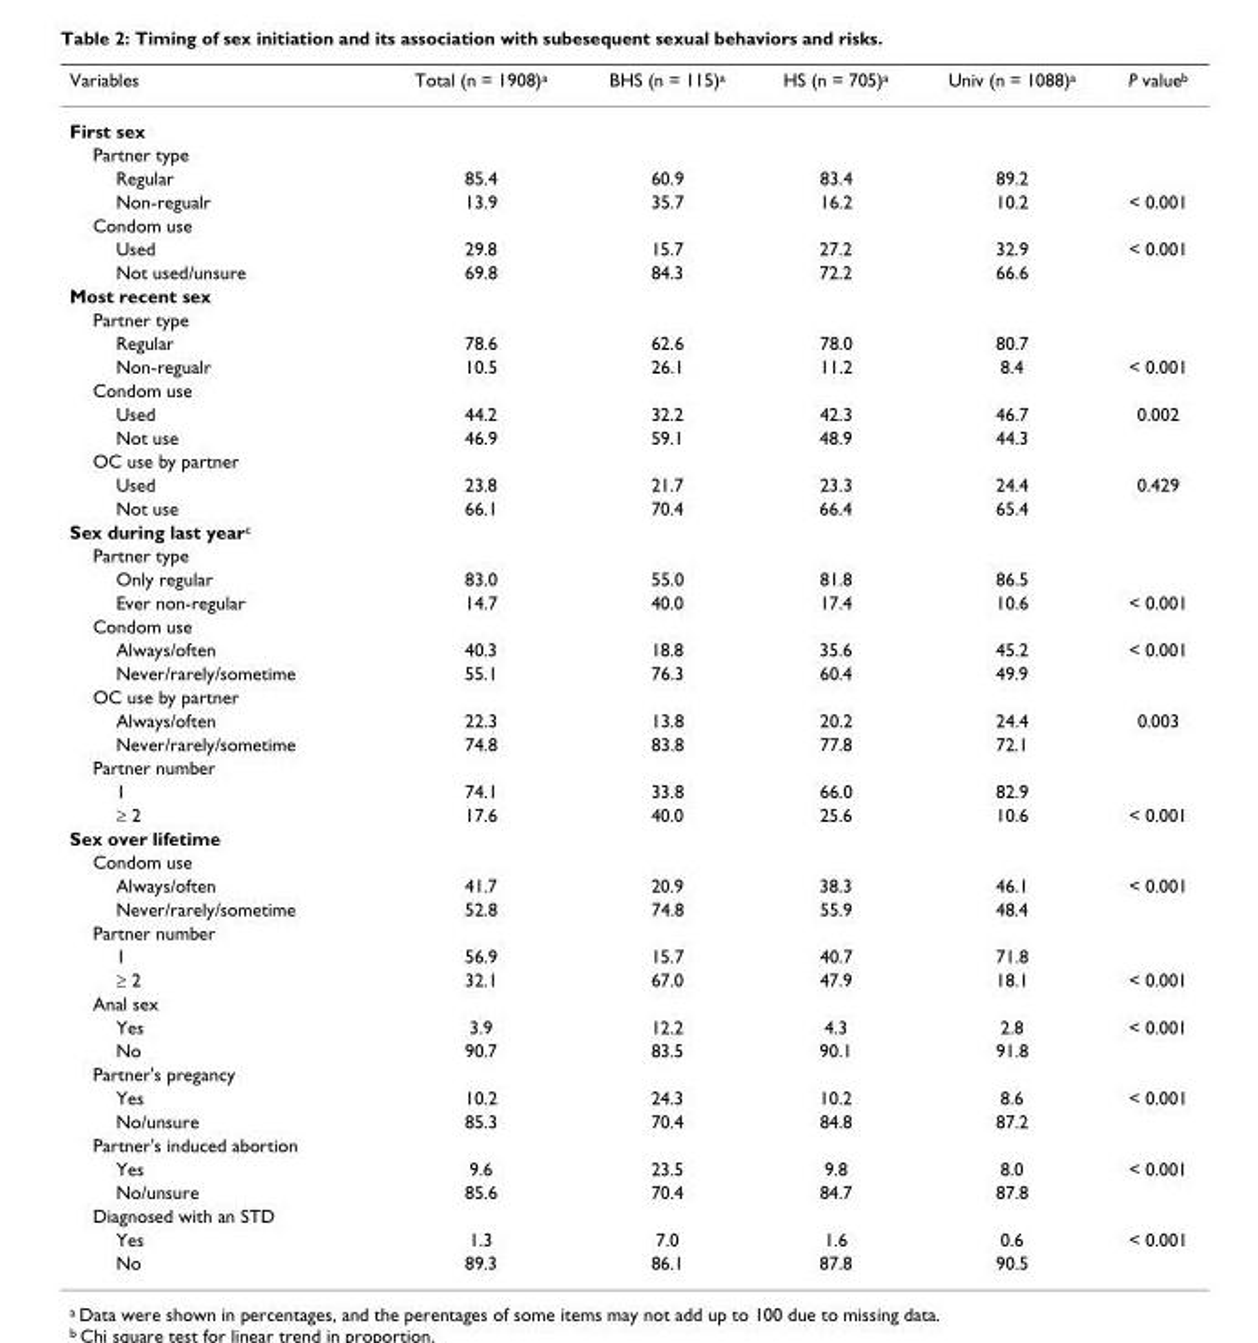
<table><thead><tr><td>Variables</td><td>Total (n = 1908)<sup>a</sup></td><td>BHS (n = 115)<sup>a</sup></td><td>HS (n = 705)<sup>a</sup></td><td>Univ (n = 1088)<sup>a</sup></td><td>P value<sup>b</sup></td></tr></thead><tbody><tr><td colspan="6">First sex</td></tr><tr><td colspan="6">Partner type</td></tr><tr><td>Regular</td><td>85.4</td><td>60.9</td><td>83.4</td><td>89.2</td><td></td></tr><tr><td>Non-regualr</td><td>13.9</td><td>35.7</td><td>16.2</td><td>10.2</td><td>&lt; 0.001</td></tr><tr><td colspan="6">Condom use</td></tr><tr><td>Used</td><td>29.8</td><td>15.7</td><td>27.2</td><td>32.9</td><td>&lt; 0.001</td></tr><tr><td>Not used/unsure</td><td>69.8</td><td>84.3</td><td>72.2</td><td>66.6</td><td></td></tr><tr><td colspan="6">Most recent sex</td></tr><tr><td colspan="6">Partner type</td></tr><tr><td>Regular</td><td>78.6</td><td>62.6</td><td>78.0</td><td>80.7</td><td></td></tr><tr><td>Non-regualr</td><td>10.5</td><td>26.1</td><td>11.2</td><td>8.4</td><td>&lt; 0.001</td></tr><tr><td colspan="6">Condom use</td></tr><tr><td>Used</td><td>44.2</td><td>32.2</td><td>42.3</td><td>46.7</td><td>0.002</td></tr><tr><td>Not use</td><td>46.9</td><td>59.1</td><td>48.9</td><td>44.3</td><td></td></tr><tr><td colspan="6">OC use by partner</td></tr><tr><td>Used</td><td>23.8</td><td>21.7</td><td>23.3</td><td>24.4</td><td>0.429</td></tr><tr><td>Not use</td><td>66.1</td><td>70.4</td><td>66.4</td><td>65.4</td><td></td></tr><tr><td colspan="6">Sex during last year<sup>c</sup></td></tr><tr><td colspan="6">Partner type</td></tr><tr><td>Only regular</td><td>83.0</td><td>55.0</td><td>81.8</td><td>86.5</td><td></td></tr><tr><td>Ever non-regular</td><td>14.7</td><td>40.0</td><td>17.4</td><td>10.6</td><td>&lt; 0.001</td></tr><tr><td colspan="6">Condom use</td></tr><tr><td>Always/often</td><td>40.3</td><td>18.8</td><td>35.6</td><td>45.2</td><td>&lt; 0.001</td></tr><tr><td>Never/rarely/sometime</td><td>55.1</td><td>76.3</td><td>60.4</td><td>49.9</td><td></td></tr><tr><td colspan="6">OC use by partner</td></tr><tr><td>Always/often</td><td>22.3</td><td>13.8</td><td>20.2</td><td>24.4</td><td>0.003</td></tr><tr><td>Never/rarely/sometime</td><td>74.8</td><td>83.8</td><td>77.8</td><td>72.1</td><td></td></tr><tr><td colspan="6">Partner number</td></tr><tr><td>1</td><td>74.1</td><td>33.8</td><td>66.0</td><td>82.9</td><td></td></tr><tr><td>≥ 2</td><td>17.6</td><td>40.0</td><td>25.6</td><td>10.6</td><td>&lt; 0.001</td></tr><tr><td colspan="6">Sex over lifetime</td></tr><tr><td colspan="6">Condom use</td></tr><tr><td>Always/often</td><td>41.7</td><td>20.9</td><td>38.3</td><td>46.1</td><td>&lt; 0.001</td></tr><tr><td>Never/rarely/sometime</td><td>52.8</td><td>74.8</td><td>55.9</td><td>48.4</td><td></td></tr><tr><td colspan="6">Partner number</td></tr><tr><td>1</td><td>56.9</td><td>15.7</td><td>40.7</td><td>71.8</td><td></td></tr><tr><td>≥ 2</td><td>32.1</td><td>67.0</td><td>47.9</td><td>18.1</td><td>&lt; 0.001</td></tr><tr><td colspan="6">Anal sex</td></tr><tr><td>Yes</td><td>3.9</td><td>12.2</td><td>4.3</td><td>2.8</td><td>&lt; 0.001</td></tr><tr><td>No</td><td>90.7</td><td>83.5</td><td>90.1</td><td>91.8</td><td></td></tr><tr><td colspan="6">Partner&#x27;s pregancy</td></tr><tr><td>Yes</td><td>10.2</td><td>24.3</td><td>10.2</td><td>8.6</td><td>&lt; 0.001</td></tr><tr><td>No/unsure</td><td>85.3</td><td>70.4</td><td>84.8</td><td>87.2</td><td></td></tr><tr><td colspan="6">Partner&#x27;s induced abortion</td></tr><tr><td>Yes</td><td>9.6</td><td>23.5</td><td>9.8</td><td>8.0</td><td>&lt; 0.001</td></tr><tr><td>No/unsure</td><td>85.6</td><td>70.4</td><td>84.7</td><td>87.8</td><td></td></tr><tr><td colspan="6">Diagnosed with an STD</td></tr><tr><td>Yes</td><td>1.3</td><td>7.0</td><td>1.6</td><td>0.6</td><td>&lt; 0.001</td></tr><tr><td>No</td><td>89.3</td><td>86.1</td><td>87.8</td><td>90.5</td><td></td></tr></tbody></table>